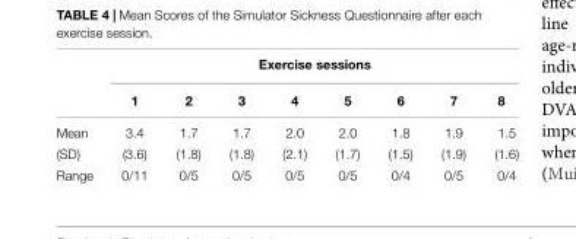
<table><thead><tr><td rowspan="2"></td><td colspan="8">Exercise sessions</td></tr><tr><td>1</td><td>2</td><td>3</td><td>4</td><td>5</td><td>6</td><td>7</td><td>8</td></tr></thead><tbody><tr><td>Mean</td><td>3.4</td><td>1.7</td><td>1.7</td><td>2.0</td><td>2.0</td><td>1.8</td><td>1.9</td><td>1.5</td></tr><tr><td>(SD)</td><td>(3.6)</td><td>(1.8)</td><td>(1.8)</td><td>(2.1)</td><td>(1.7)</td><td>(1.5)</td><td>(1.9)</td><td>(1.6)</td></tr><tr><td>Range</td><td>0/11</td><td>0/5</td><td>0/5</td><td>0/5</td><td>0/5</td><td>0/4</td><td>0/5</td><td>0/4</td></tr></tbody></table>